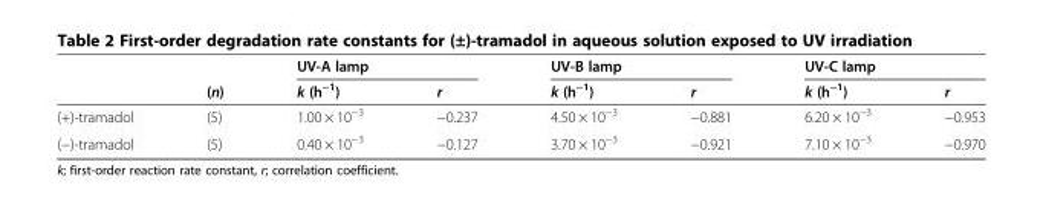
<table><thead><tr><td rowspan="2"></td><td rowspan="2">(n)</td><td colspan="2">UV-A lamp</td><td colspan="2">UV-B lamp</td><td colspan="2">UV-C lamp</td></tr><tr><td>k (h<sup>−1</sup>)</td><td>r</td><td>k (h<sup>−1</sup>)</td><td>r</td><td>k (h<sup>−1</sup>)</td><td>r</td></tr></thead><tbody><tr><td>(+)-tramadol</td><td>(5)</td><td>1.00 × 10<sup>−3</sup></td><td>−0.237</td><td>4.50 × 10<sup>−3</sup></td><td>−0.881</td><td>6.20 × 10<sup>−3</sup></td><td>−0.953</td></tr><tr><td>(−)-tramadol</td><td>(5)</td><td>0.40 × 10<sup>−3</sup></td><td>−0.127</td><td>3.70 × 10<sup>−3</sup></td><td>−0.921</td><td>7.10 × 10<sup>−3</sup></td><td>−0.970</td></tr></tbody></table>